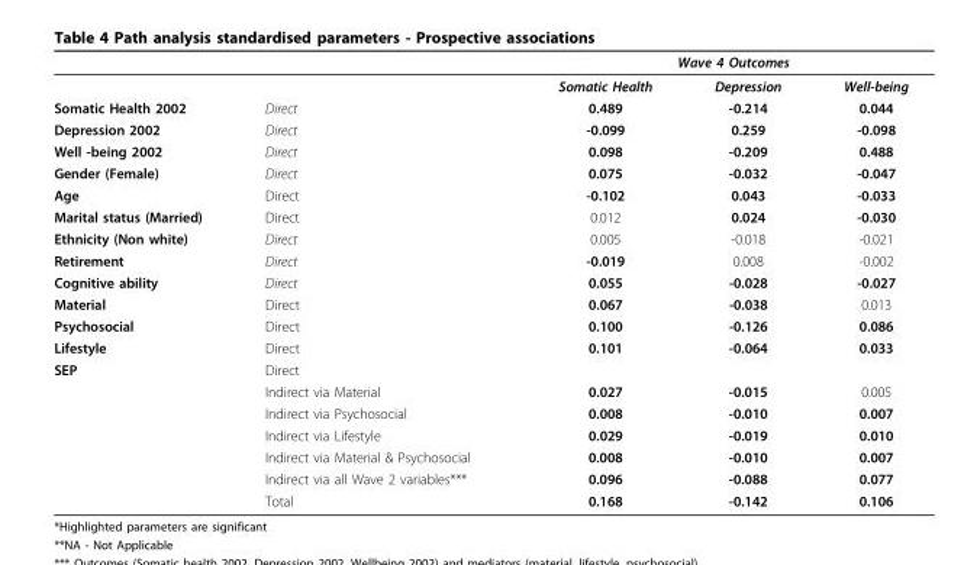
<table><thead><tr><td rowspan="2"></td><td rowspan="2"></td><td colspan="3">Wave 4 Outcomes</td></tr><tr><td>Somatic Health</td><td>Depression</td><td>Well-being</td></tr></thead><tbody><tr><td>Somatic Health 2002</td><td>Direct</td><td>0.489</td><td>-0.214</td><td>0.044</td></tr><tr><td>Depression 2002</td><td>Direct</td><td>-0.099</td><td>0.259</td><td>-0.098</td></tr><tr><td>Well -being 2002</td><td>Direct</td><td>0.098</td><td>-0.209</td><td>0.488</td></tr><tr><td>Gender (Female)</td><td>Direct</td><td>0.075</td><td>-0.032</td><td>-0.047</td></tr><tr><td>Age</td><td>Direct</td><td>-0.102</td><td>0.043</td><td>-0.033</td></tr><tr><td>Marital status (Married)</td><td>Direct</td><td>0.012</td><td>0.024</td><td>-0.030</td></tr><tr><td>Ethnicity (Non white)</td><td>Direct</td><td>0.005</td><td>-0.018</td><td>-0.021</td></tr><tr><td>Retirement</td><td>Direct</td><td>-0.019</td><td>0.008</td><td>-0.002</td></tr><tr><td>Cognitive ability</td><td>Direct</td><td>0.055</td><td>-0.028</td><td>-0.027</td></tr><tr><td>Material</td><td>Direct</td><td>0.067</td><td>-0.038</td><td>0.013</td></tr><tr><td>Psychosocial</td><td>Direct</td><td>0.100</td><td>-0.126</td><td>0.086</td></tr><tr><td>Lifestyle</td><td>Direct</td><td>0.101</td><td>-0.064</td><td>0.033</td></tr><tr><td rowspan="7">SEP</td><td>Direct</td><td></td><td></td><td></td></tr><tr><td>Indirect via Material</td><td>0.027</td><td>-0.015</td><td>0.005</td></tr><tr><td>Indirect via Psychosocial</td><td>0.008</td><td>-0.010</td><td>0.007</td></tr><tr><td>Indirect via Lifestyle</td><td>0.029</td><td>-0.019</td><td>0.010</td></tr><tr><td>Indirect via Material &amp; Psychosocial</td><td>0.008</td><td>-0.010</td><td>0.007</td></tr><tr><td>Indirect via all Wave 2 variables***</td><td>0.096</td><td>-0.088</td><td>0.077</td></tr><tr><td>Total</td><td>0.168</td><td>-0.142</td><td>0.106</td></tr></tbody></table>